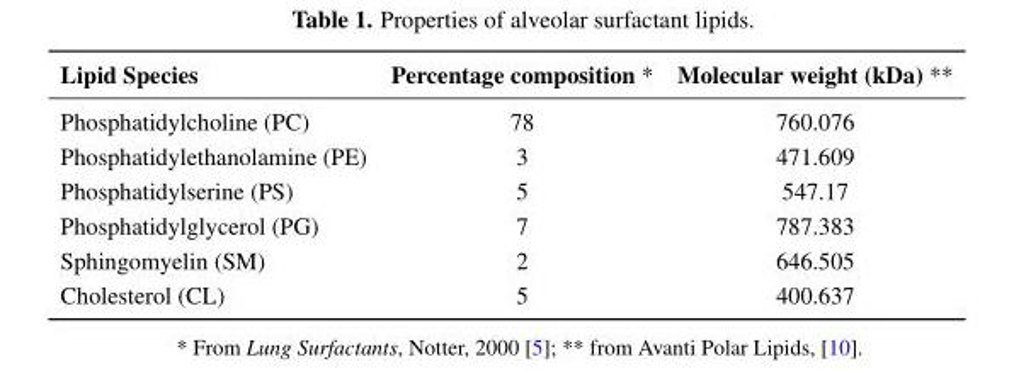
<table><thead><tr><td>Lipid Species</td><td>Percentage composition *</td><td>Molecular weight (kDa) **</td></tr></thead><tbody><tr><td>Phosphatidylcholine (PC)</td><td>78</td><td>760.076</td></tr><tr><td>Phosphatidylethanolamine (PE)</td><td>3</td><td>471.609</td></tr><tr><td>Phosphatidylserine (PS)</td><td>5</td><td>547.17</td></tr><tr><td>Phosphatidylglycerol (PG)</td><td>7</td><td>787.383</td></tr><tr><td>Sphingomyelin (SM)</td><td>2</td><td>646.505</td></tr><tr><td>Cholesterol (CL)</td><td>5</td><td>400.637</td></tr></tbody></table>